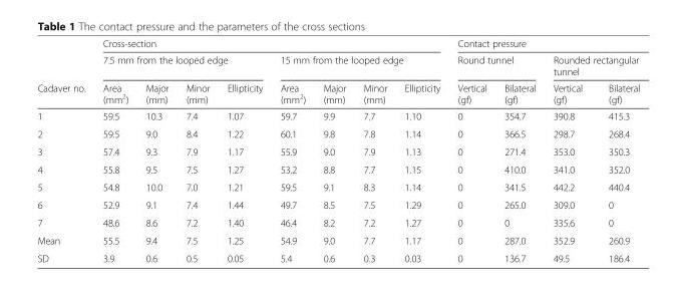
<table><thead><tr><td rowspan="3">Cadaver no.</td><td colspan="8">Cross-section</td><td colspan="4">Contact pressure</td></tr><tr><td colspan="4">7.5 mm from the looped edge</td><td colspan="4">15 mm from the looped edge</td><td colspan="2">Round tunnel</td><td colspan="2">Rounded rectangular tunnel</td></tr><tr><td>Area (mm<sup>2</sup>)</td><td>Major (mm)</td><td>Minor (mm)</td><td>Ellipticity</td><td>Area (mm<sup>2</sup>)</td><td>Major (mm)</td><td>Minor (mm)</td><td>Ellipticity</td><td>Vertical (gf)</td><td>Bilateral (gf)</td><td>Vertical (gf)</td><td>Bilateral (gf)</td></tr></thead><tbody><tr><td>1</td><td>59.5</td><td>10.3</td><td>7.4</td><td>1.07</td><td>59.7</td><td>9.9</td><td>7.7</td><td>1.10</td><td>0</td><td>354.7</td><td>390.8</td><td>415.3</td></tr><tr><td>2</td><td>59.5</td><td>9.0</td><td>8.4</td><td>1.22</td><td>60.1</td><td>9.8</td><td>7.8</td><td>1.14</td><td>0</td><td>366.5</td><td>298.7</td><td>268.4</td></tr><tr><td>3</td><td>57.4</td><td>9.3</td><td>7.9</td><td>1.17</td><td>55.9</td><td>9.0</td><td>7.9</td><td>1.13</td><td>0</td><td>271.4</td><td>353.0</td><td>350.3</td></tr><tr><td>4</td><td>55.8</td><td>9.5</td><td>7.5</td><td>1.27</td><td>53.2</td><td>8.8</td><td>7.7</td><td>1.15</td><td>0</td><td>410.0</td><td>341.0</td><td>352.0</td></tr><tr><td>5</td><td>54.8</td><td>10.0</td><td>7.0</td><td>1.21</td><td>59.5</td><td>9.1</td><td>8.3</td><td>1.14</td><td>0</td><td>341.5</td><td>442.2</td><td>440.4</td></tr><tr><td>6</td><td>52.9</td><td>9.1</td><td>7.4</td><td>1.44</td><td>49.7</td><td>8.5</td><td>7.5</td><td>1.29</td><td>0</td><td>265.0</td><td>309.0</td><td>0</td></tr><tr><td>7</td><td>48.6</td><td>8.6</td><td>7.2</td><td>1.40</td><td>46.4</td><td>8.2</td><td>7.2</td><td>1.27</td><td>0</td><td>0</td><td>335.6</td><td>0</td></tr><tr><td>Mean</td><td>55.5</td><td>9.4</td><td>7.5</td><td>1.25</td><td>54.9</td><td>9.0</td><td>7.7</td><td>1.17</td><td>0</td><td>287.0</td><td>352.9</td><td>260.9</td></tr><tr><td>SD</td><td>3.9</td><td>0.6</td><td>0.5</td><td>0.05</td><td>5.4</td><td>0.6</td><td>0.3</td><td>0.03</td><td>0</td><td>136.7</td><td>49.5</td><td>186.4</td></tr></tbody></table>